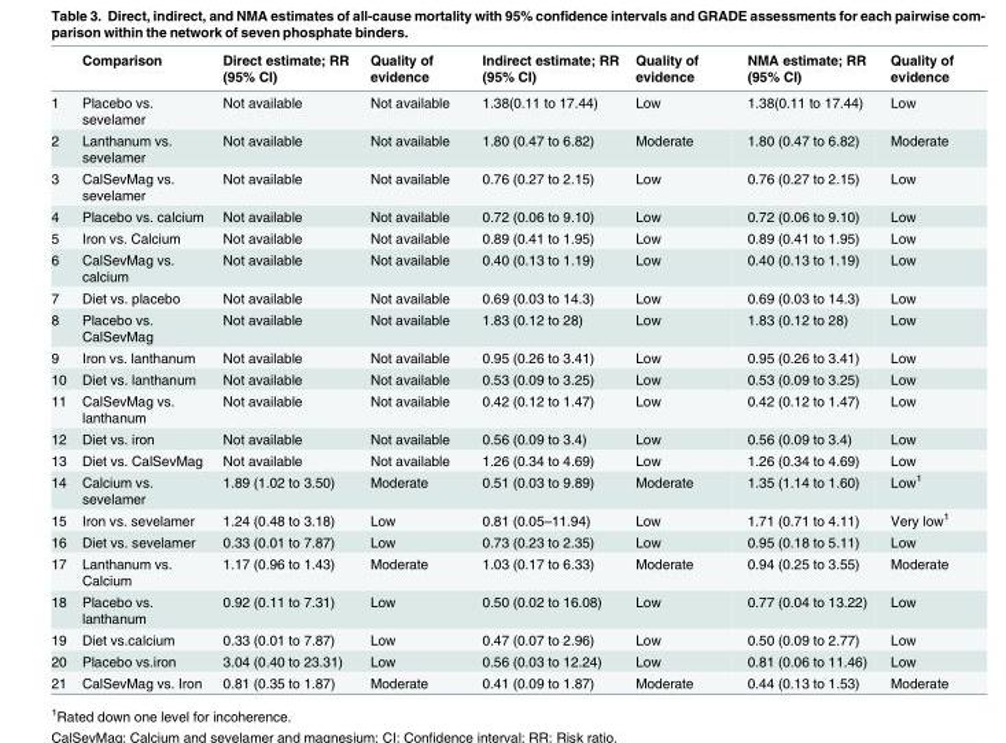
<table><thead><tr><td></td><td>Comparison</td><td>Direct estimate; RR (95% CI)</td><td>Quality of evidence</td><td>Indirect estimate; RR (95% CI)</td><td>Quality of evidence</td><td>NMA estimate; RR (95% CI)</td><td>Quality of evidence</td></tr></thead><tbody><tr><td>1</td><td>Placebo vs. sevelamer</td><td>Not available</td><td>Not available</td><td>1.38(0.11 to 17.44)</td><td>Low</td><td>1.38(0.11 to 17.44)</td><td>Low</td></tr><tr><td>2</td><td>Lanthanum vs. sevelamer</td><td>Not available</td><td>Not available</td><td>1.80 (0.47 to 6.82)</td><td>Moderate</td><td>1.80 (0.47 to 6.82)</td><td>Moderate</td></tr><tr><td>3</td><td>CalSevMag vs. sevelamer</td><td>Not available</td><td>Not available</td><td>0.76 (0.27 to 2.15)</td><td>Low</td><td>0.76 (0.27 to 2.15)</td><td>Low</td></tr><tr><td>4</td><td>Placebo vs. calcium</td><td>Not available</td><td>Not available</td><td>0.72 (0.06 to 9.10)</td><td>Low</td><td>0.72 (0.06 to 9.10)</td><td>Low</td></tr><tr><td>5</td><td>Iron vs. Calcium</td><td>Not available</td><td>Not available</td><td>0.89 (0.41 to 1.95)</td><td>Low</td><td>0.89 (0.41 to 1.95)</td><td>Low</td></tr><tr><td>6</td><td>CalSevMag vs. calcium</td><td>Not available</td><td>Not available</td><td>0.40 (0.13 to 1.19)</td><td>Low</td><td>0.40 (0.13 to 1.19)</td><td>Low</td></tr><tr><td>7</td><td>Diet vs. placebo</td><td>Not available</td><td>Not available</td><td>0.69 (0.03 to 14.3)</td><td>Low</td><td>0.69 (0.03 to 14.3)</td><td>Low</td></tr><tr><td>8</td><td>Placebo vs. CalSevMag</td><td>Not available</td><td>Not available</td><td>1.83 (0.12 to 28)</td><td>Low</td><td>1.83 (0.12 to 28)</td><td>Low</td></tr><tr><td>9</td><td>Iron vs. lanthanum</td><td>Not available</td><td>Not available</td><td>0.95 (0.26 to 3.41)</td><td>Low</td><td>0.95 (0.26 to 3.41)</td><td>Low</td></tr><tr><td>10</td><td>Diet vs. lanthanum</td><td>Not available</td><td>Not available</td><td>0.53 (0.09 to 3.25)</td><td>Low</td><td>0.53 (0.09 to 3.25)</td><td>Low</td></tr><tr><td>11</td><td>CalSevMag vs. lanthanum</td><td>Not available</td><td>Not available</td><td>0.42 (0.12 to 1.47)</td><td>Low</td><td>0.42 (0.12 to 1.47)</td><td>Low</td></tr><tr><td>12</td><td>Diet vs. iron</td><td>Not available</td><td>Not available</td><td>0.56 (0.09 to 3.4)</td><td>Low</td><td>0.56 (0.09 to 3.4)</td><td>Low</td></tr><tr><td>13</td><td>Diet vs. CalSevMag</td><td>Not available</td><td>Not available</td><td>1.26 (0.34 to 4.69)</td><td>Low</td><td>1.26 (0.34 to 4.69)</td><td>Low</td></tr><tr><td>14</td><td>Calcium vs. sevelamer</td><td>1.89 (1.02 to 3.50)</td><td>Moderate</td><td>0.51 (0.03 to 9.89)</td><td>Moderate</td><td>1.35 (1.14 to 1.60)</td><td>Low<sup>1</sup></td></tr><tr><td>15</td><td>Iron vs. sevelamer</td><td>1.24 (0.48 to 3.18)</td><td>Low</td><td>0.81 (0.05–11.94)</td><td>Low</td><td>1.71 (0.71 to 4.11)</td><td>Very low<sup>1</sup></td></tr><tr><td>16</td><td>Diet vs. sevelamer</td><td>0.33 (0.01 to 7.87)</td><td>Low</td><td>0.73 (0.23 to 2.35)</td><td>Low</td><td>0.95 (0.18 to 5.11)</td><td>Low</td></tr><tr><td>17</td><td>Lanthanum vs. Calcium</td><td>1.17 (0.96 to 1.43)</td><td>Moderate</td><td>1.03 (0.17 to 6.33)</td><td>Moderate</td><td>0.94 (0.25 to 3.55)</td><td>Moderate</td></tr><tr><td>18</td><td>Placebo vs. lanthanum</td><td>0.92 (0.11 to 7.31)</td><td>Low</td><td>0.50 (0.02 to 16.08)</td><td>Low</td><td>0.77 (0.04 to 13.22)</td><td>Low</td></tr><tr><td>19</td><td>Diet vs.calcium</td><td>0.33 (0.01 to 7.87)</td><td>Low</td><td>0.47 (0.07 to 2.96)</td><td>Low</td><td>0.50 (0.09 to 2.77)</td><td>Low</td></tr><tr><td>20</td><td>Placebo vs.iron</td><td>3.04 (0.40 to 23.31)</td><td>Low</td><td>0.56 (0.03 to 12.24)</td><td>Low</td><td>0.81 (0.06 to 11.46)</td><td>Low</td></tr><tr><td>21</td><td>CalSevMag vs. Iron</td><td>0.81 (0.35 to 1.87)</td><td>Moderate</td><td>0.41 (0.09 to 1.87)</td><td>Moderate</td><td>0.44 (0.13 to 1.53)</td><td>Moderate</td></tr></tbody></table>